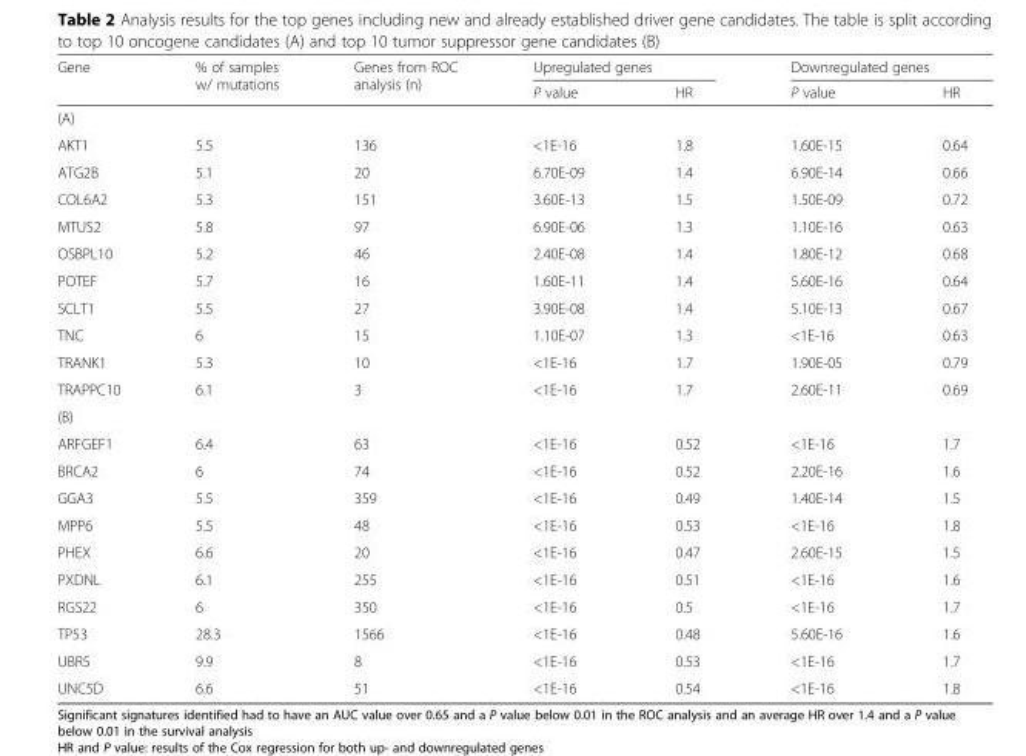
<table><thead><tr><td rowspan="2">Gene</td><td rowspan="2">% of samples w/ mutations</td><td rowspan="2">Genes from ROC analysis (n)</td><td colspan="2">Upregulated genes</td><td colspan="2">Downregulated genes</td></tr><tr><td>P value</td><td>HR</td><td>P value</td><td>HR</td></tr></thead><tbody><tr><td colspan="7">(A)</td></tr><tr><td>AKT1</td><td>5.5</td><td>136</td><td>&lt;1E-16</td><td>1.8</td><td>1.60E-15</td><td>0.64</td></tr><tr><td>ATG2B</td><td>5.1</td><td>20</td><td>6.70E-09</td><td>1.4</td><td>6.90E-14</td><td>0.66</td></tr><tr><td>COL6A2</td><td>5.3</td><td>151</td><td>3.60E-13</td><td>1.5</td><td>1.50E-09</td><td>0.72</td></tr><tr><td>MTUS2</td><td>5.8</td><td>97</td><td>6.90E-06</td><td>1.3</td><td>1.10E-16</td><td>0.63</td></tr><tr><td>OSBPL10</td><td>5.2</td><td>46</td><td>2.40E-08</td><td>1.4</td><td>1.80E-12</td><td>0.68</td></tr><tr><td>POTEF</td><td>5.7</td><td>16</td><td>1.60E-11</td><td>1.4</td><td>5.60E-16</td><td>0.64</td></tr><tr><td>SCLT1</td><td>5.5</td><td>27</td><td>3.90E-08</td><td>1.4</td><td>5.10E-13</td><td>0.67</td></tr><tr><td>TNC</td><td>6</td><td>15</td><td>1.10E-07</td><td>1.3</td><td>&lt;1E-16</td><td>0.63</td></tr><tr><td>TRANK1</td><td>5.3</td><td>10</td><td>&lt;1E-16</td><td>1.7</td><td>1.90E-05</td><td>0.79</td></tr><tr><td>TRAPPC10</td><td>6.1</td><td>3</td><td>&lt;1E-16</td><td>1.7</td><td>2.60E-11</td><td>0.69</td></tr><tr><td colspan="7">(B)</td></tr><tr><td>ARFGEF1</td><td>6.4</td><td>63</td><td>&lt;1E-16</td><td>0.52</td><td>&lt;1E-16</td><td>1.7</td></tr><tr><td>BRCA2</td><td>6</td><td>74</td><td>&lt;1E-16</td><td>0.52</td><td>2.20E-16</td><td>1.6</td></tr><tr><td>GGA3</td><td>5.5</td><td>359</td><td>&lt;1E-16</td><td>0.49</td><td>1.40E-14</td><td>1.5</td></tr><tr><td>MPP6</td><td>5.5</td><td>48</td><td>&lt;1E-16</td><td>0.53</td><td>&lt;1E-16</td><td>1.8</td></tr><tr><td>PHEX</td><td>6.6</td><td>20</td><td>&lt;1E-16</td><td>0.47</td><td>2.60E-15</td><td>1.5</td></tr><tr><td>PXDNL</td><td>6.1</td><td>255</td><td>&lt;1E-16</td><td>0.51</td><td>&lt;1E-16</td><td>1.6</td></tr><tr><td>RGS22</td><td>6</td><td>350</td><td>&lt;1E-16</td><td>0.5</td><td>&lt;1E-16</td><td>1.7</td></tr><tr><td>TP53</td><td>28.3</td><td>1566</td><td>&lt;1E-16</td><td>0.48</td><td>5.60E-16</td><td>1.6</td></tr><tr><td>UBR5</td><td>9.9</td><td>8</td><td>&lt;1E-16</td><td>0.53</td><td>&lt;1E-16</td><td>1.7</td></tr><tr><td>UNC5D</td><td>6.6</td><td>51</td><td>&lt;1E-16</td><td>0.54</td><td>&lt;1E-16</td><td>1.8</td></tr></tbody></table>